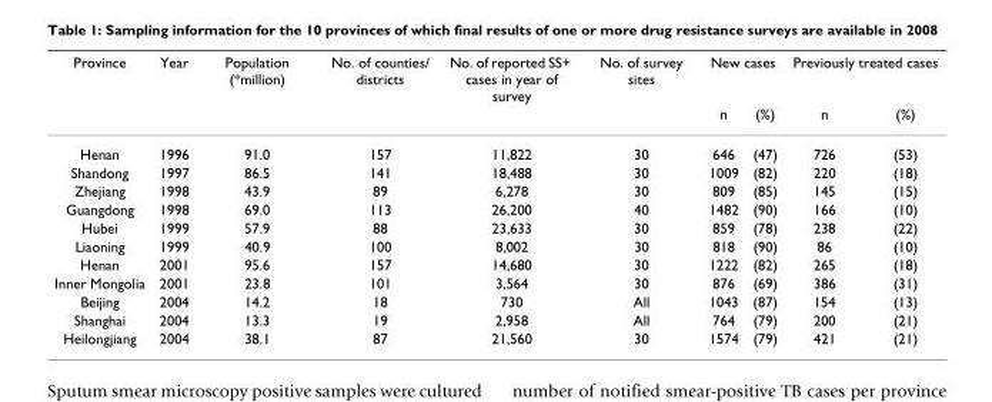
<table><thead><tr><td rowspan="2">Province</td><td rowspan="2">Year</td><td rowspan="2">Population (*million)</td><td rowspan="2">No. of counties/ districts</td><td rowspan="2">No. of reported SS+ cases in year of survey</td><td rowspan="2">No. of survey sites</td><td colspan="2">New cases</td><td colspan="2">Previously treated cases</td></tr><tr><td>n</td><td>(%)</td><td>n</td><td>(%)</td></tr></thead><tbody><tr><td>Henan</td><td>1996</td><td>91.0</td><td>157</td><td>11,822</td><td>30</td><td>646</td><td>(47)</td><td>726</td><td>(53)</td></tr><tr><td>Shandong</td><td>1997</td><td>86.5</td><td>141</td><td>18,488</td><td>30</td><td>1009</td><td>(82)</td><td>220</td><td>(18)</td></tr><tr><td>Zhejiang</td><td>1998</td><td>43.9</td><td>89</td><td>6,278</td><td>30</td><td>809</td><td>(85)</td><td>145</td><td>(15)</td></tr><tr><td>Guangdong</td><td>1998</td><td>69.0</td><td>113</td><td>26,200</td><td>40</td><td>1482</td><td>(90)</td><td>166</td><td>(10)</td></tr><tr><td>Hubei</td><td>1999</td><td>57.9</td><td>88</td><td>23,633</td><td>30</td><td>859</td><td>(78)</td><td>238</td><td>(22)</td></tr><tr><td>Liaoning</td><td>1999</td><td>40.9</td><td>100</td><td>8,002</td><td>30</td><td>818</td><td>(90)</td><td>86</td><td>(10)</td></tr><tr><td>Henan</td><td>2001</td><td>95.6</td><td>157</td><td>14,680</td><td>30</td><td>1222</td><td>(82)</td><td>265</td><td>(18)</td></tr><tr><td>Inner Mongolia</td><td>2001</td><td>23.8</td><td>101</td><td>3,564</td><td>30</td><td>876</td><td>(69)</td><td>386</td><td>(31)</td></tr><tr><td>Beijing</td><td>2004</td><td>14.2</td><td>18</td><td>730</td><td>All</td><td>1043</td><td>(87)</td><td>154</td><td>(13)</td></tr><tr><td>Shanghai</td><td>2004</td><td>13.3</td><td>19</td><td>2,958</td><td>All</td><td>764</td><td>(79)</td><td>200</td><td>(21)</td></tr><tr><td>Heilongjiang</td><td>2004</td><td>38.1</td><td>87</td><td>21,560</td><td>30</td><td>1574</td><td>(79)</td><td>421</td><td>(21)</td></tr></tbody></table>